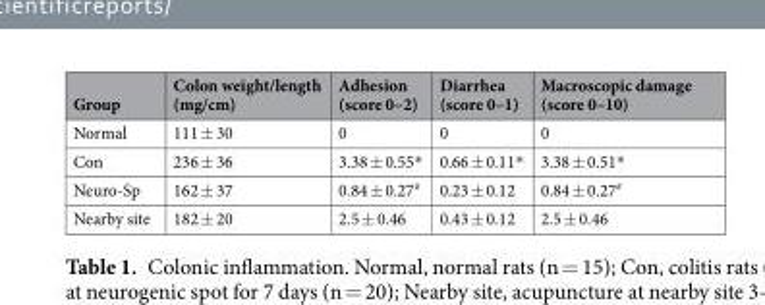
<table><thead><tr><td>Group</td><td>Colon weight/length (mg/cm)</td><td>Adhesion (score 0–2)</td><td>Diarrhea (score 0–1)</td><td>Macroscopic damage (score 0–10)</td></tr></thead><tbody><tr><td>Normal</td><td>111 ± 30</td><td>0</td><td>0</td><td>0</td></tr><tr><td>Con</td><td>236 ± 36</td><td>3.38 ± 0.55*</td><td>0.66 ± 0.11*</td><td>3.38 ± 0.51*</td></tr><tr><td>Neuro-Sp</td><td>162 ± 37</td><td>0.84 ± 0.27<sup>#</sup></td><td>0.23 ± 0.12</td><td>0.84 ± 0.27<sup>#</sup></td></tr><tr><td>Nearby site</td><td>182 ± 20</td><td>2.5 ± 0.46</td><td>0.43 ± 0.12</td><td>2.5 ± 0.46</td></tr></tbody></table>